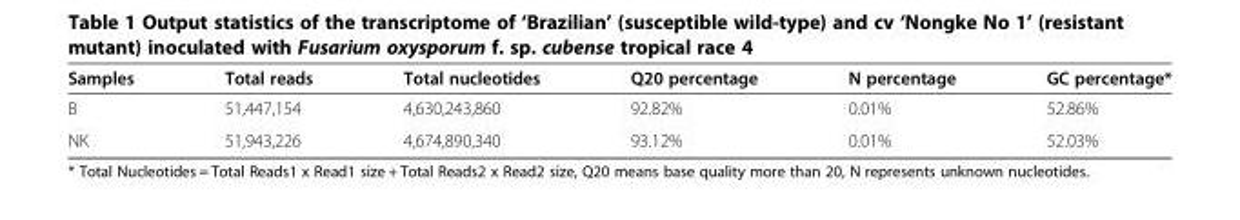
<table><thead><tr><td>Samples</td><td>Total reads</td><td>Total nucleotides</td><td>Q20 percentage</td><td>N percentage</td><td>GC percentage*</td></tr></thead><tbody><tr><td>B</td><td>51,447,154</td><td>4,630,243,860</td><td>92.82%</td><td>0.01%</td><td>52.86%</td></tr><tr><td>NK</td><td>51,943,226</td><td>4,674,890,340</td><td>93.12%</td><td>0.01%</td><td>52.03%</td></tr></tbody></table>